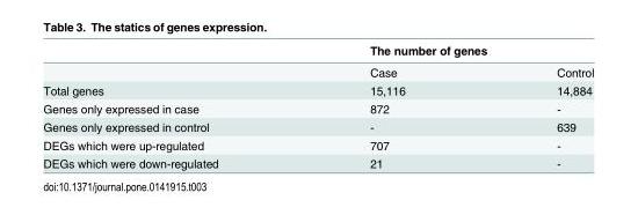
<table><thead><tr><td rowspan="2"></td><td colspan="2">The number of genes</td></tr><tr><td>Case</td><td>Control</td></tr></thead><tbody><tr><td>Total genes</td><td>15,116</td><td>14,884</td></tr><tr><td>Genes only expressed in case</td><td>872</td><td>-</td></tr><tr><td>Genes only expressed in control</td><td>-</td><td>639</td></tr><tr><td>DEGs which were up-regulated</td><td>707</td><td>-</td></tr><tr><td>DEGs which were down-regulated</td><td>21</td><td>-</td></tr></tbody></table>